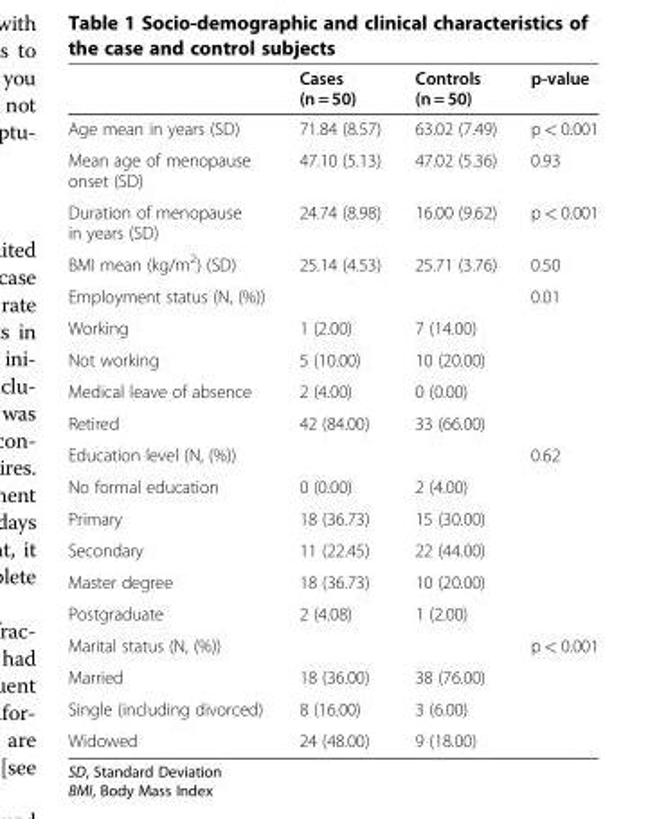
<table><thead><tr><td></td><td>Cases (n = 50)</td><td>Controls (n = 50)</td><td>p-value</td></tr></thead><tbody><tr><td>Age mean in years (SD)</td><td>71.84 (8.57)</td><td>63.02 (7.49)</td><td>p &lt; 0.001</td></tr><tr><td>Mean age of menopause onset (SD)</td><td>47.10 (5.13)</td><td>47.02 (5.36)</td><td>0.93</td></tr><tr><td>Duration of menopause in years (SD)</td><td>24.74 (8.98)</td><td>16.00 (9.62)</td><td>p &lt; 0.001</td></tr><tr><td>BMI mean (kg/m<sup>2</sup>) (SD)</td><td>25.14 (4.53)</td><td>25.71 (3.76)</td><td>0.50</td></tr><tr><td>Employment status (N, (%))</td><td></td><td></td><td>0.01</td></tr><tr><td>Working</td><td>1 (2.00)</td><td>7 (14.00)</td><td></td></tr><tr><td>Not working</td><td>5 (10.00)</td><td>10 (20.00)</td><td></td></tr><tr><td>Medical leave of absence</td><td>2 (4.00)</td><td>0 (0.00)</td><td></td></tr><tr><td>Retired</td><td>42 (84.00)</td><td>33 (66.00)</td><td></td></tr><tr><td>Education level (N, (%))</td><td></td><td></td><td>0.62</td></tr><tr><td>No formal education</td><td>0 (0.00)</td><td>2 (4.00)</td><td></td></tr><tr><td>Primary</td><td>18 (36.73)</td><td>15 (30.00)</td><td></td></tr><tr><td>Secondary</td><td>11 (22.45)</td><td>22 (44.00)</td><td></td></tr><tr><td>Master degree</td><td>18 (36.73)</td><td>10 (20.00)</td><td></td></tr><tr><td>Postgraduate</td><td>2 (4.08)</td><td>1 (2.00)</td><td></td></tr><tr><td>Marital status (N, (%))</td><td></td><td></td><td>p &lt; 0.001</td></tr><tr><td>Married</td><td>18 (36.00)</td><td>38 (76.00)</td><td></td></tr><tr><td>Single (including divorced)</td><td>8 (16.00)</td><td>3 (6.00)</td><td></td></tr><tr><td>Widowed</td><td>24 (48.00)</td><td>9 (18.00)</td><td></td></tr></tbody></table>